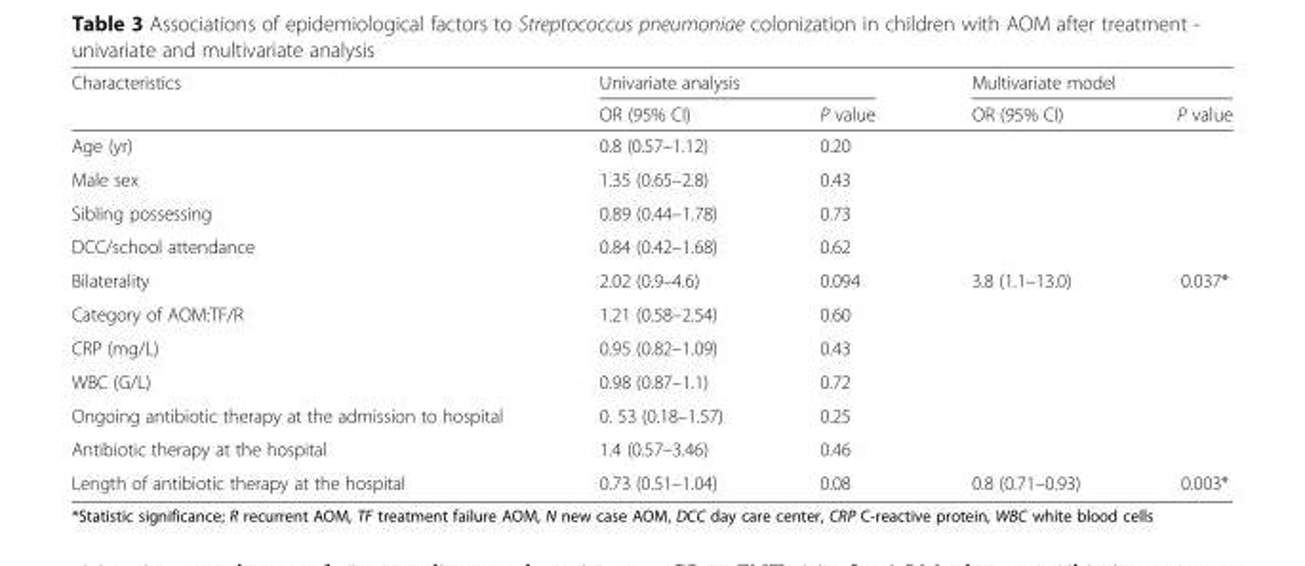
<table><thead><tr><td rowspan="2">Characteristics</td><td colspan="2">Univariate analysis</td><td colspan="2">Multivariate model</td></tr><tr><td>OR (95% CI)</td><td>P value</td><td>OR (95% CI)</td><td>P value</td></tr></thead><tbody><tr><td>Age (yr)</td><td>0.8 (0.57–1.12)</td><td>0.20</td><td></td><td></td></tr><tr><td>Male sex</td><td>1.35 (0.65–2.8)</td><td>0.43</td><td></td><td></td></tr><tr><td>Sibling possessing</td><td>0.89 (0.44–1.78)</td><td>0.73</td><td></td><td></td></tr><tr><td>DCC/school attendance</td><td>0.84 (0.42–1.68)</td><td>0.62</td><td></td><td></td></tr><tr><td>Bilaterality</td><td>2.02 (0.9–4.6)</td><td>0.094</td><td>3.8 (1.1–13.0)</td><td>0.037*</td></tr><tr><td>Category of AOM:TF/R</td><td>1.21 (0.58–2.54)</td><td>0.60</td><td></td><td></td></tr><tr><td>CRP (mg/L)</td><td>0.95 (0.82–1.09)</td><td>0.43</td><td></td><td></td></tr><tr><td>WBC (G/L)</td><td>0.98 (0.87–1.1)</td><td>0.72</td><td></td><td></td></tr><tr><td>Ongoing antibiotic therapy at the admission to hospital</td><td>0. 53 (0.18–1.57)</td><td>0.25</td><td></td><td></td></tr><tr><td>Antibiotic therapy at the hospital</td><td>1.4 (0.57–3.46)</td><td>0.46</td><td></td><td></td></tr><tr><td>Length of antibiotic therapy at the hospital</td><td>0.73 (0.51–1.04)</td><td>0.08</td><td>0.8 (0.71–0.93)</td><td>0.003*</td></tr></tbody></table>